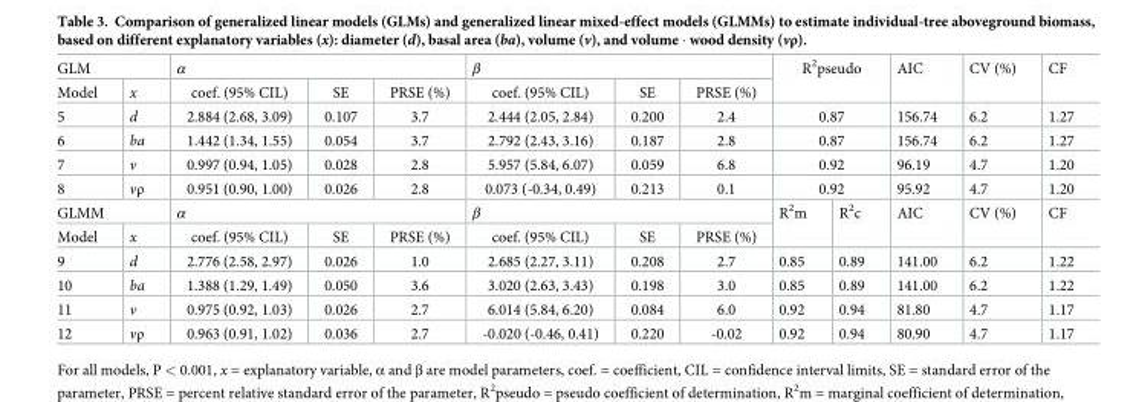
<table><tbody><tr><td colspan="2">GLM</td><td colspan="3">α</td><td colspan="3">β</td><td rowspan="2" colspan="2">R<sup>2</sup>pseudo</td><td rowspan="2">AIC</td><td rowspan="2">CV (%)</td><td rowspan="2">CF</td></tr><tr><td>Model</td><td>x</td><td>coef. (95% CIL)</td><td>SE</td><td>PRSE (%)</td><td>coef. (95% CIL)</td><td>SE</td><td>PRSE (%)</td></tr><tr><td>5</td><td>d</td><td>2.884 (2.68, 3.09)</td><td>0.107</td><td>3.7</td><td>2.444 (2.05, 2.84)</td><td>0.200</td><td>2.4</td><td colspan="2">0.87</td><td>156.74</td><td>6.2</td><td>1.27</td></tr><tr><td>6</td><td>ba</td><td>1.442 (1.34, 1.55)</td><td>0.054</td><td>3.7</td><td>2.792 (2.43, 3.16)</td><td>0.187</td><td>2.8</td><td colspan="2">0.87</td><td>156.74</td><td>6.2</td><td>1.27</td></tr><tr><td>7</td><td>v</td><td>0.997 (0.94, 1.05)</td><td>0.028</td><td>2.8</td><td>5.957 (5.84, 6.07)</td><td>0.059</td><td>6.8</td><td colspan="2">0.92</td><td>96.19</td><td>4.7</td><td>1.20</td></tr><tr><td>8</td><td>vρ</td><td>0.951 (0.90, 1.00)</td><td>0.026</td><td>2.8</td><td>0.073 (-0.34, 0.49)</td><td>0.213</td><td>0.1</td><td colspan="2">0.92</td><td>95.92</td><td>4.7</td><td>1.20</td></tr><tr><td colspan="2">GLMM</td><td colspan="3">α</td><td colspan="3">β</td><td rowspan="2">R<sup>2</sup>m</td><td rowspan="2">R<sup>2</sup>c</td><td rowspan="2">AIC</td><td rowspan="2">CV (%)</td><td rowspan="2">CF</td></tr><tr><td>Model</td><td>x</td><td>coef. (95% CIL)</td><td>SE</td><td>PRSE (%)</td><td>coef. (95% CIL)</td><td>SE</td><td>PRSE (%)</td></tr><tr><td>9</td><td>d</td><td>2.776 (2.58, 2.97)</td><td>0.026</td><td>1.0</td><td>2.685 (2.27, 3.11)</td><td>0.208</td><td>2.7</td><td>0.85</td><td>0.89</td><td>141.00</td><td>6.2</td><td>1.22</td></tr><tr><td>10</td><td>ba</td><td>1.388 (1.29, 1.49)</td><td>0.050</td><td>3.6</td><td>3.020 (2.63, 3.43)</td><td>0.198</td><td>3.0</td><td>0.85</td><td>0.89</td><td>141.00</td><td>6.2</td><td>1.22</td></tr><tr><td>11</td><td>v</td><td>0.975 (0.92, 1.03)</td><td>0.026</td><td>2.7</td><td>6.014 (5.84, 6.20)</td><td>0.084</td><td>6.0</td><td>0.92</td><td>0.94</td><td>81.80</td><td>4.7</td><td>1.17</td></tr><tr><td>12</td><td>vρ</td><td>0.963 (0.91, 1.02)</td><td>0.036</td><td>2.7</td><td>-0.020 (-0.46, 0.41)</td><td>0.220</td><td>-0.02</td><td>0.92</td><td>0.94</td><td>80.90</td><td>4.7</td><td>1.17</td></tr></tbody></table>